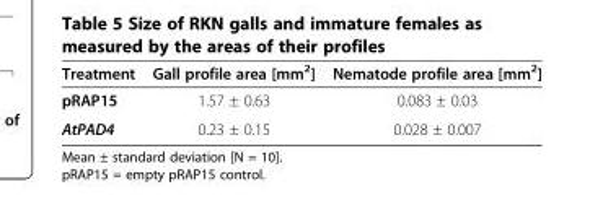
<table><thead><tr><td>Treatment</td><td>Gall profile area [mm<sup>2</sup>]</td><td>Nematode profile area [mm<sup>2</sup>]</td></tr></thead><tbody><tr><td>pRAP15</td><td>1.57 ± 0.63</td><td>0.083 ± 0.03</td></tr><tr><td>AtPAD4</td><td>0.23 ± 0.15</td><td>0.028 ± 0.007</td></tr></tbody></table>